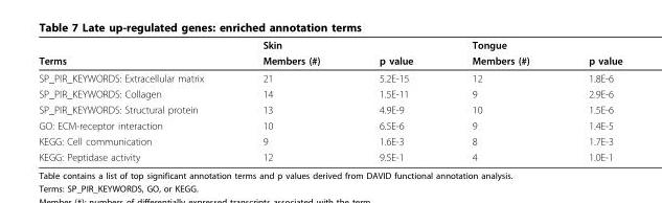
<table><thead><tr><td rowspan="2">Terms</td><td rowspan="2">Skin Members (#)</td><td rowspan="2">p value</td><td rowspan="2">Tongue Members (#)</td><td rowspan="2">p value</td></tr><tr></tr></thead><tbody><tr><td>SP_PIR_KEYWORDS: Extracellular matrix</td><td>21</td><td>5.2E-15</td><td>12</td><td>1.8E-6</td></tr><tr><td>SP_PIR_KEYWORDS: Collagen</td><td>14</td><td>1.5E-11</td><td>9</td><td>2.9E-6</td></tr><tr><td>SP_PIR_KEYWORDS: Structural protein</td><td>13</td><td>4.9E-9</td><td>10</td><td>1.5E-6</td></tr><tr><td>GO: ECM-receptor interaction</td><td>10</td><td>6.5E-6</td><td>9</td><td>1.4E-5</td></tr><tr><td>KEGG: Cell communication</td><td>9</td><td>1.6E-3</td><td>8</td><td>1.7E-3</td></tr><tr><td>KEGG: Peptidase activity</td><td>12</td><td>9.5E-1</td><td>4</td><td>1.0E-1</td></tr></tbody></table>